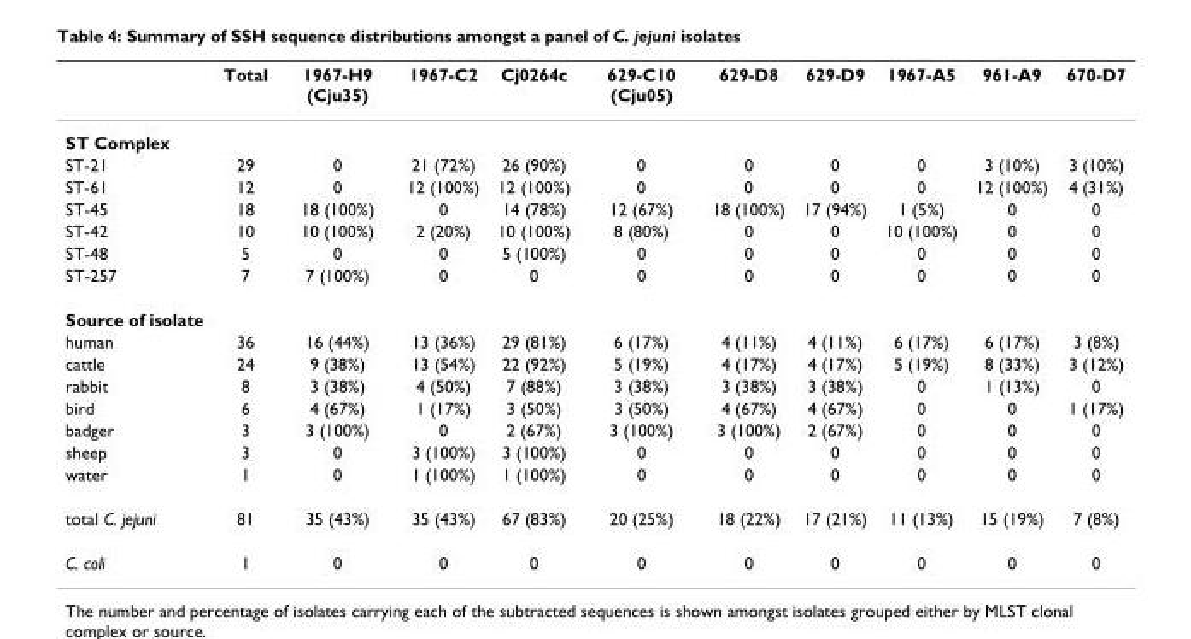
<table><thead><tr><td></td><td>Total</td><td>1967-H9 (Cju35)</td><td>1967-C2</td><td>Cj0264c</td><td>629-C10 (Cju05)</td><td>629-D8</td><td>629-D9</td><td>1967-A5</td><td>961-A9</td><td>670-D7</td></tr></thead><tbody><tr><td colspan="11">ST Complex</td></tr><tr><td>ST-21</td><td>29</td><td>0</td><td>21 (72%)</td><td>26 (90%)</td><td>0</td><td>0</td><td>0</td><td>0</td><td>3 (10%)</td><td>3 (10%)</td></tr><tr><td>ST-61</td><td>12</td><td>0</td><td>12 (100%)</td><td>12 (100%)</td><td>0</td><td>0</td><td>0</td><td>0</td><td>12 (100%)</td><td>4 (31%)</td></tr><tr><td>ST-45</td><td>18</td><td>18 (100%)</td><td>0</td><td>14 (78%)</td><td>12 (67%)</td><td>18 (100%)</td><td>17 (94%)</td><td>1 (5%)</td><td>0</td><td>0</td></tr><tr><td>ST-42</td><td>10</td><td>10 (100%)</td><td>2 (20%)</td><td>10 (100%)</td><td>8 (80%)</td><td>0</td><td>0</td><td>10 (100%)</td><td>0</td><td>0</td></tr><tr><td>ST-48</td><td>5</td><td>0</td><td>0</td><td>5 (100%)</td><td>0</td><td>0</td><td>0</td><td>0</td><td>0</td><td>0</td></tr><tr><td>ST-257</td><td>7</td><td>7 (100%)</td><td>0</td><td>0</td><td>0</td><td>0</td><td>0</td><td>0</td><td>0</td><td>0</td></tr><tr><td colspan="11">Source of isolate</td></tr><tr><td>human</td><td>36</td><td>16 (44%)</td><td>13 (36%)</td><td>29 (81%)</td><td>6 (17%)</td><td>4 (11%)</td><td>4 (11%)</td><td>6 (17%)</td><td>6 (17%)</td><td>3 (8%)</td></tr><tr><td>cattle</td><td>24</td><td>9 (38%)</td><td>13 (54%)</td><td>22 (92%)</td><td>5 (19%)</td><td>4 (17%)</td><td>4 (17%)</td><td>5 (19%)</td><td>8 (33%)</td><td>3 (12%)</td></tr><tr><td>rabbit</td><td>8</td><td>3 (38%)</td><td>4 (50%)</td><td>7 (88%)</td><td>3 (38%)</td><td>3 (38%)</td><td>3 (38%)</td><td>0</td><td>1 (13%)</td><td>0</td></tr><tr><td>bird</td><td>6</td><td>4 (67%)</td><td>1 (17%)</td><td>3 (50%)</td><td>3 (50%)</td><td>4 (67%)</td><td>4 (67%)</td><td>0</td><td>0</td><td>1 (17%)</td></tr><tr><td>badger</td><td>3</td><td>3 (100%)</td><td>0</td><td>2 (67%)</td><td>3 (100%)</td><td>3 (100%)</td><td>2 (67%)</td><td>0</td><td>0</td><td>0</td></tr><tr><td>sheep</td><td>3</td><td>0</td><td>3 (100%)</td><td>3 (100%)</td><td>0</td><td>0</td><td>0</td><td>0</td><td>0</td><td>0</td></tr><tr><td>water</td><td>1</td><td>0</td><td>1 (100%)</td><td>1 (100%)</td><td>0</td><td>0</td><td>0</td><td>0</td><td>0</td><td>0</td></tr><tr><td>total C. jejuni</td><td>81</td><td>35 (43%)</td><td>35 (43%)</td><td>67 (83%)</td><td>20 (25%)</td><td>18 (22%)</td><td>17 (21%)</td><td>11 (13%)</td><td>15 (19%)</td><td>7 (8%)</td></tr><tr><td>C. coli</td><td>1</td><td>0</td><td>0</td><td>0</td><td>0</td><td>0</td><td>0</td><td>0</td><td>0</td><td>0</td></tr></tbody></table>